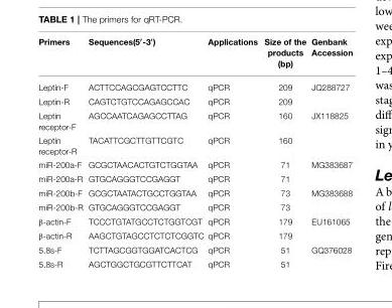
<table><thead><tr><td>Primers</td><td>Sequences(5′-3′)</td><td>Applications</td><td>Size of the products (bp)</td><td>Genbank Accession</td></tr></thead><tbody><tr><td>Leptin-F</td><td>ACTTCCAGCGAGTCCTTC</td><td>qPCR</td><td>209</td><td>JQ288727</td></tr><tr><td>Leptin-R</td><td>CAGTCTGTCCAGAGCCAC</td><td>qPCR</td><td>209</td><td></td></tr><tr><td>Leptin receptor-F</td><td>AGCCAATCAGAGCCTTAG</td><td>qPCR</td><td>160</td><td>JX118825</td></tr><tr><td>Leptin receptor-R</td><td>TACATTCGCTTGTTCGTC</td><td>qPCR</td><td>160</td><td></td></tr><tr><td>miR-200a-F</td><td>GCGCTAACACTGTCTGGTAA</td><td>qPCR</td><td>71</td><td>MG383687</td></tr><tr><td>miR-200a-R</td><td>GTGCAGGGTCCGAGGT</td><td>qPCR</td><td>71</td><td></td></tr><tr><td>miR-200b-F</td><td>GCGCTAATACTGCCTGGTAA</td><td>qPCR</td><td>73</td><td>MG383688</td></tr><tr><td>miR-200b-R</td><td>GTGCAGGGTCCGAGGT</td><td>qPCR</td><td>73</td><td></td></tr><tr><td>β-actin-F</td><td>TCCCTGTATGCCTCTGGTCGT</td><td>qPCR</td><td>179</td><td>EU161065</td></tr><tr><td>β-actin-R</td><td>AAGCTGTAGCCTCTCTCGGTC</td><td>qPCR</td><td>179</td><td></td></tr><tr><td>5.8s-F</td><td>TCTTAGCGGTGGATCACTCG</td><td>qPCR</td><td>51</td><td>GQ376028</td></tr><tr><td>5.8s-R</td><td>AGCTGGCTGCGTTCTTCAT</td><td>qPCR</td><td>51</td><td></td></tr></tbody></table>